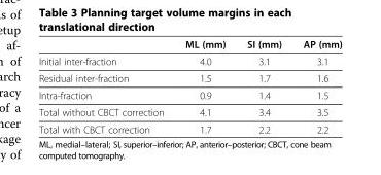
<table><thead><tr><td></td><td>ML (mm)</td><td>SI (mm)</td><td>AP (mm)</td></tr></thead><tbody><tr><td>Initial inter-fraction</td><td>4.0</td><td>3.1</td><td>3.1</td></tr><tr><td>Residual inter-fraction</td><td>1.5</td><td>1.7</td><td>1.6</td></tr><tr><td>Intra-fraction</td><td>0.9</td><td>1.4</td><td>1.5</td></tr><tr><td>Total without CBCT correction</td><td>4.1</td><td>3.4</td><td>3.5</td></tr><tr><td>Total with CBCT correction</td><td>1.7</td><td>2.2</td><td>2.2</td></tr></tbody></table>